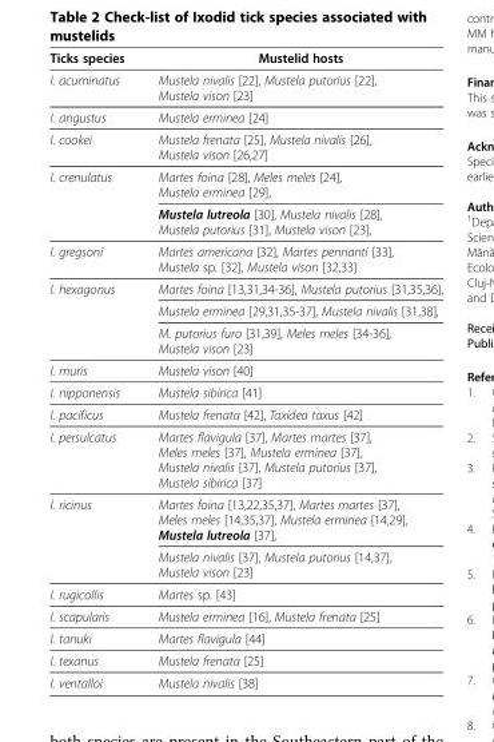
<table><thead><tr><td>Ticks species</td><td>Mustelid hosts</td></tr></thead><tbody><tr><td>I. acuminatus</td><td>Mustela nivalis [22], Mustela putorius [22], Mustela vison [23]</td></tr><tr><td>I. angustus</td><td>Mustela erminea [24]</td></tr><tr><td>I. cookei</td><td>Mustela frenata [25], Mustela nivalis [26], Mustela vison [26,27]</td></tr><tr><td rowspan="2">I. crenulatus</td><td>Martes foina [28], Meles meles [24], Mustela erminea [29],</td></tr><tr><td>Mustela lutreola [30], Mustela nivalis [28], Mustela putorius [31], Mustela vison [23],</td></tr><tr><td>I. gregsoni</td><td>Martes americana [32], Martes pennanti [33], Mustela sp. [32], Mustela vison [32,33]</td></tr><tr><td rowspan="3">I. hexagonus</td><td>Martes foina [13,31,34-36], Mustela putorius [31,35,36],</td></tr><tr><td>Mustela erminea [29,31,35-37], Mustela nivalis [31,38],</td></tr><tr><td>M. putorius furo [31,39], Meles meles [34-36], Mustela vison [23]</td></tr><tr><td>I. muris</td><td>Mustela vison [40]</td></tr><tr><td>I. nipponensis</td><td>Mustela sibirica [41]</td></tr><tr><td>I. pacificus</td><td>Mustela frenata [42], Taxidea taxus [42]</td></tr><tr><td>I. persulcatus</td><td>Martes flavigula [37], Martes martes [37], Meles meles [37], Mustela erminea [37], Mustela nivalis [37], Mustela putorius [37], Mustela sibirica [37]</td></tr><tr><td rowspan="2">I. ricinus</td><td>Martes foina [13,22,35,37], Martes martes [37], Meles meles [14,35,37], Mustela erminea [14,29], Mustela lutreola [37],</td></tr><tr><td>Mustela nivalis [37], Mustela putorius [14,37], Mustela vison [23]</td></tr><tr><td>I. rugicollis</td><td>Martes sp. [43]</td></tr><tr><td>I. scapularis</td><td>Mustela erminea [16], Mustela frenata [25]</td></tr><tr><td>I. tanuki</td><td>Martes flavigula [44]</td></tr><tr><td>I. texanus</td><td>Mustela frenata [25]</td></tr><tr><td>I. ventalloi</td><td>Mustela nivalis [38]</td></tr></tbody></table>